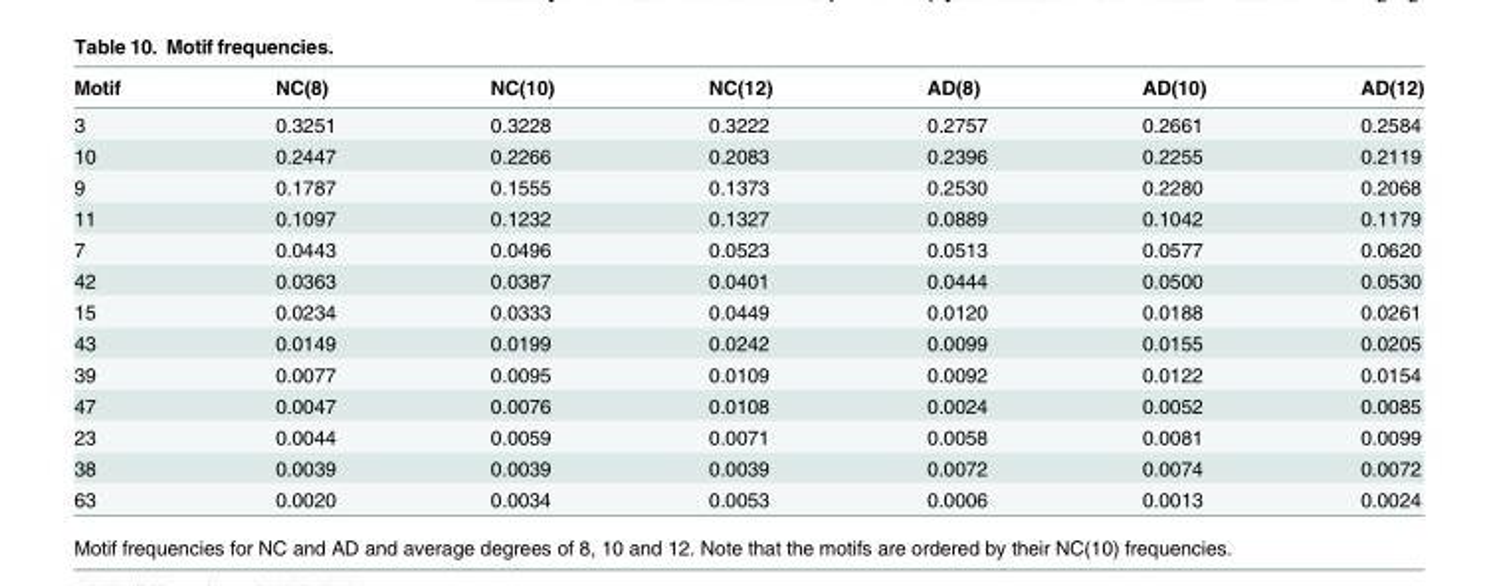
<table><thead><tr><td>Motif</td><td>NC(8)</td><td>NC(10)</td><td>NC(12)</td><td>AD(8)</td><td>AD(10)</td><td>AD(12)</td></tr></thead><tbody><tr><td>3</td><td>0.3251</td><td>0.3228</td><td>0.3222</td><td>0.2757</td><td>0.2661</td><td>0.2584</td></tr><tr><td>10</td><td>0.2447</td><td>0.2266</td><td>0.2083</td><td>0.2396</td><td>0.2255</td><td>0.2119</td></tr><tr><td>9</td><td>0.1787</td><td>0.1555</td><td>0.1373</td><td>0.2530</td><td>0.2280</td><td>0.2068</td></tr><tr><td>11</td><td>0.1097</td><td>0.1232</td><td>0.1327</td><td>0.0889</td><td>0.1042</td><td>0.1179</td></tr><tr><td>7</td><td>0.0443</td><td>0.0496</td><td>0.0523</td><td>0.0513</td><td>0.0577</td><td>0.0620</td></tr><tr><td>42</td><td>0.0363</td><td>0.0387</td><td>0.0401</td><td>0.0444</td><td>0.0500</td><td>0.0530</td></tr><tr><td>15</td><td>0.0234</td><td>0.0333</td><td>0.0449</td><td>0.0120</td><td>0.0188</td><td>0.0261</td></tr><tr><td>43</td><td>0.0149</td><td>0.0199</td><td>0.0242</td><td>0.0099</td><td>0.0155</td><td>0.0205</td></tr><tr><td>39</td><td>0.0077</td><td>0.0095</td><td>0.0109</td><td>0.0092</td><td>0.0122</td><td>0.0154</td></tr><tr><td>47</td><td>0.0047</td><td>0.0076</td><td>0.0108</td><td>0.0024</td><td>0.0052</td><td>0.0085</td></tr><tr><td>23</td><td>0.0044</td><td>0.0059</td><td>0.0071</td><td>0.0058</td><td>0.0081</td><td>0.0099</td></tr><tr><td>38</td><td>0.0039</td><td>0.0039</td><td>0.0039</td><td>0.0072</td><td>0.0074</td><td>0.0072</td></tr><tr><td>63</td><td>0.0020</td><td>0.0034</td><td>0.0053</td><td>0.0006</td><td>0.0013</td><td>0.0024</td></tr></tbody></table>